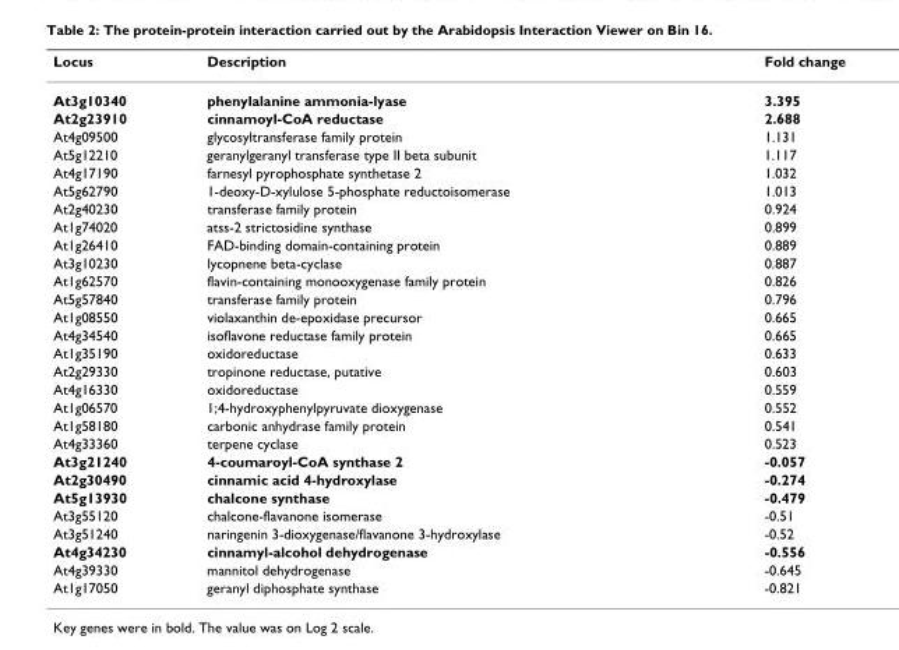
<table><thead><tr><td>Locus</td><td>Description</td><td>Fold change</td></tr></thead><tbody><tr><td>At3g10340</td><td>phenylalanine ammonia-lyase</td><td>3.395</td></tr><tr><td>At2g23910</td><td>cinnamoyl-CoA reductase</td><td>2.688</td></tr><tr><td>At4g09500</td><td>glycosyltransferase family protein</td><td>1.131</td></tr><tr><td>At5g12210</td><td>geranylgeranyl transferase type II beta subunit</td><td>1.117</td></tr><tr><td>At4g17190</td><td>farnesyl pyrophosphate synthetase 2</td><td>1.032</td></tr><tr><td>At5g62790</td><td>1-deoxy-D-xylulose 5-phosphate reductoisomerase</td><td>1.013</td></tr><tr><td>At2g40230</td><td>transferase family protein</td><td>0.924</td></tr><tr><td>At1g74020</td><td>atss-2 strictosidine synthase</td><td>0.899</td></tr><tr><td>At1g26410</td><td>FAD-binding domain-containing protein</td><td>0.889</td></tr><tr><td>At3g10230</td><td>lycopnene beta-cyclase</td><td>0.887</td></tr><tr><td>At1g62570</td><td>flavin-containing monooxygenase family protein</td><td>0.826</td></tr><tr><td>At5g57840</td><td>transferase family protein</td><td>0.796</td></tr><tr><td>At1g08550</td><td>violaxanthin de-epoxidase precursor</td><td>0.665</td></tr><tr><td>At4g34540</td><td>isoflavone reductase family protein</td><td>0.665</td></tr><tr><td>At1g35190</td><td>oxidoreductase</td><td>0.633</td></tr><tr><td>At2g29330</td><td>tropinone reductase, putative</td><td>0.603</td></tr><tr><td>At4g16330</td><td>oxidoreductase</td><td>0.559</td></tr><tr><td>At1g06570</td><td>1;4-hydroxyphenylpyruvate dioxygenase</td><td>0.552</td></tr><tr><td>At1g58180</td><td>carbonic anhydrase family protein</td><td>0.541</td></tr><tr><td>At4g33360</td><td>terpene cyclase</td><td>0.523</td></tr><tr><td>At3g21240</td><td>4-coumaroyl-CoA synthase 2</td><td>-0.057</td></tr><tr><td>At2g30490</td><td>cinnamic acid 4-hydroxylase</td><td>-0.274</td></tr><tr><td>At5g13930</td><td>chalcone synthase</td><td>-0.479</td></tr><tr><td>At3g55120</td><td>chalcone-flavanone isomerase</td><td>-0.51</td></tr><tr><td>At3g51240</td><td>naringenin 3-dioxygenase/flavanone 3-hydroxylase</td><td>-0.52</td></tr><tr><td>At4g34230</td><td>cinnamyl-alcohol dehydrogenase</td><td>-0.556</td></tr><tr><td>At4g39330</td><td>mannitol dehydrogenase</td><td>-0.645</td></tr><tr><td>At1g17050</td><td>geranyl diphosphate synthase</td><td>-0.821</td></tr></tbody></table>